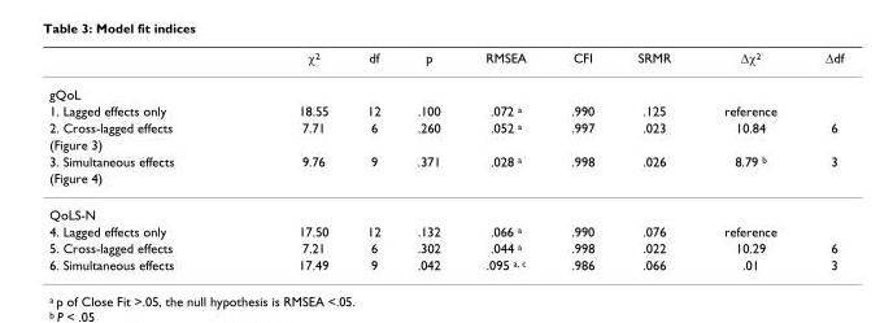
<table><thead><tr><td></td><td>χ<sup>2</sup></td><td>df</td><td>p</td><td>RMSEA</td><td>CFI</td><td>SRMR</td><td>∆χ2</td><td>∆df</td></tr></thead><tbody><tr><td colspan="9">gQoL</td></tr><tr><td>1. Lagged effects only</td><td>18.55</td><td>12</td><td>.100</td><td>.072 <sup>a</sup></td><td>.990</td><td>.125</td><td>reference</td><td></td></tr><tr><td>2. Cross-lagged effects</td><td>7.71</td><td>6</td><td>.260</td><td>.052 <sup>a</sup></td><td>.997</td><td>.023</td><td>10.84</td><td>6</td></tr><tr><td colspan="9">(Figure 3)</td></tr><tr><td>3. Simultaneous effects</td><td>9.76</td><td>9</td><td>.371</td><td>.028 <sup>a</sup></td><td>.998</td><td>.026</td><td>8.79 <sup>b</sup></td><td>3</td></tr><tr><td colspan="9">(Figure 4)</td></tr><tr><td colspan="9">QoLS-N</td></tr><tr><td>4. Lagged effects only</td><td>17.50</td><td>12</td><td>.132</td><td>.066 <sup>a</sup></td><td>.990</td><td>.076</td><td>reference</td><td></td></tr><tr><td>5. Cross-lagged effects</td><td>7.21</td><td>6</td><td>.302</td><td>.044 <sup>a</sup></td><td>.998</td><td>.022</td><td>10.29</td><td>6</td></tr><tr><td>6. Simultaneous effects</td><td>17.49</td><td>9</td><td>.042</td><td>.095 <sup>a, c</sup></td><td>.986</td><td>.066</td><td>.01</td><td>3</td></tr></tbody></table>